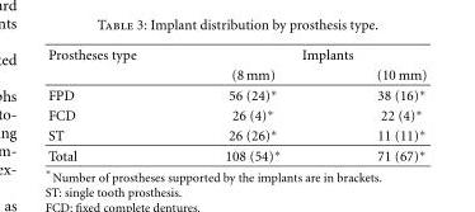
<table><thead><tr><td rowspan="2">Prostheses type</td><td colspan="2">Implants</td></tr><tr><td>(8 mm)</td><td>(10 mm)</td></tr></thead><tbody><tr><td>FPD</td><td>56 (24)∗</td><td>38 (16)∗</td></tr><tr><td>FCD</td><td>26 (4)∗</td><td>22 (4)∗</td></tr><tr><td>ST</td><td>26 (26)∗</td><td>11 (11)∗</td></tr><tr><td>Total</td><td>108 (54)∗</td><td>71 (67)∗</td></tr></tbody></table>